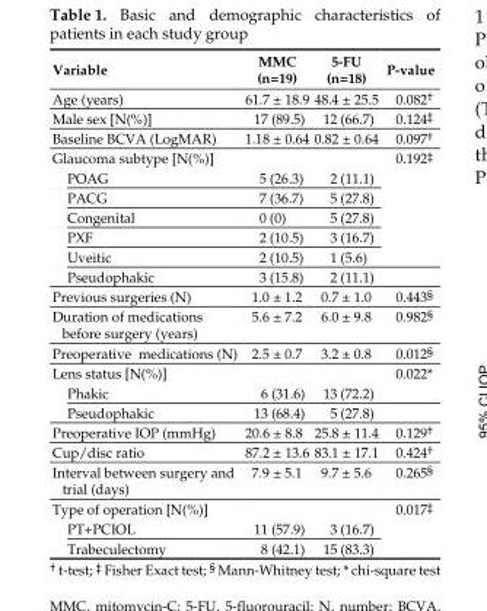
<table><thead><tr><td>Variable</td><td>MMC (n=19)</td><td>5‑Fu (n=18)</td><td>P‑value</td></tr></thead><tbody><tr><td>Age (years)</td><td>61.7 ± 18.9</td><td>48.4 ± 25.5</td><td>0.082†</td></tr><tr><td>Male sex [N(%)]</td><td>17 (89.5)</td><td>12 (66.7)</td><td>0.124‡</td></tr><tr><td>Baseline BCVA (LogMAR)</td><td>1.18 ± 0.64</td><td>0.82 ± 0.64</td><td>0.097†</td></tr><tr><td>Glaucoma subtype [N(%)]</td><td></td><td></td><td>0.192‡</td></tr><tr><td>POAG</td><td>5 (26.3)</td><td>2 (11.1)</td><td></td></tr><tr><td>PACG</td><td>7 (36.7)</td><td>5 (27.8)</td><td></td></tr><tr><td>Congenital</td><td>0 (0)</td><td>5 (27.8)</td><td></td></tr><tr><td>PXF</td><td>2 (10.5)</td><td>3 (16.7)</td><td></td></tr><tr><td>Uveitic</td><td>2 (10.5)</td><td>1 (5.6)</td><td></td></tr><tr><td>Pseudophakic</td><td>3 (15.8)</td><td>2 (11.1)</td><td></td></tr><tr><td>Previous surgeries (N)</td><td>1.0 ± 1.2</td><td>0.7 ± 1.0</td><td>0.443§</td></tr><tr><td>Duration of medications before surgery (years)</td><td>5.6 ± 7.2</td><td>6.0 ± 9.8</td><td>0.982§</td></tr><tr><td>Preoperative medications (N)</td><td>2.5 ± 0.7</td><td>3.2 ± 0.8</td><td>0.012§</td></tr><tr><td>Lens status [N(%)]</td><td></td><td></td><td>0.022*</td></tr><tr><td>Phakic</td><td>6 (31.6)</td><td>13 (72.2)</td><td></td></tr><tr><td>Pseudophakic</td><td>13 (68.4)</td><td>5 (27.8)</td><td></td></tr><tr><td>Preoperative IOP (mmHg)</td><td>20.6 ± 8.8</td><td>25.8 ± 11.4</td><td>0.129†</td></tr><tr><td>Cup/disc ratio</td><td>87.2 ± 13.6</td><td>83.1 ± 17.1</td><td>0.424†</td></tr><tr><td>Interval between surgery and trial (days)</td><td>7.9 ± 5.1</td><td>9.7 ± 5.6</td><td>0.265§</td></tr><tr><td>Type of operation [N(%)]</td><td></td><td></td><td>0.017‡</td></tr><tr><td>PT+PCIOL</td><td>11 (57.9)</td><td>3 (16.7)</td><td></td></tr><tr><td>Trabeculectomy</td><td>8 (42.1)</td><td>15 (83.3)</td><td></td></tr></tbody></table>